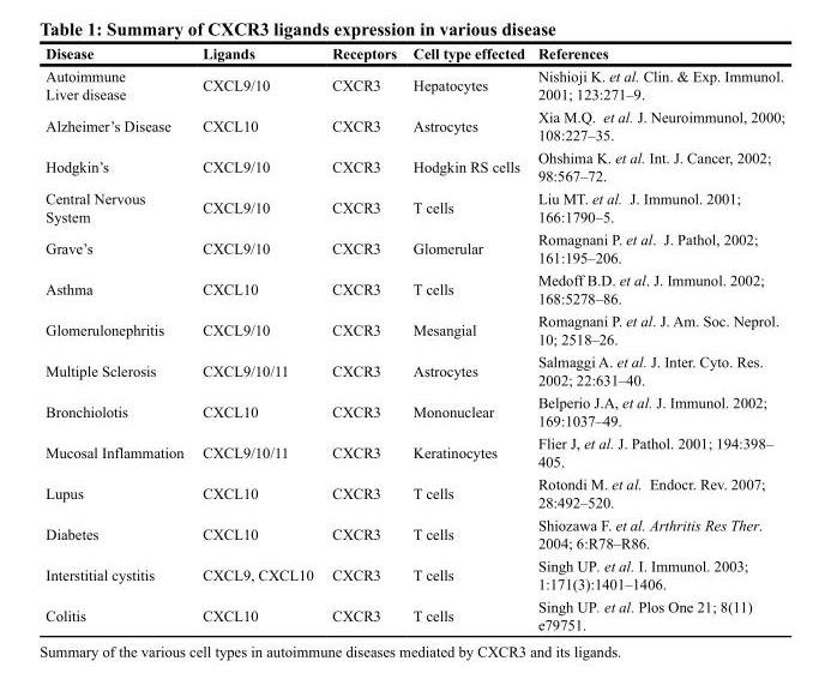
<table><thead><tr><td>Disease</td><td>Ligands</td><td>Receptors</td><td>Cell type effected</td><td>References</td></tr></thead><tbody><tr><td>Autoimmune Liver disease</td><td>CXCL9/10</td><td>CXCR3</td><td>Hepatocytes</td><td>Nishioji K. et al. Clin. &amp; Exp. Immunol. 2001; 123:271–9.</td></tr><tr><td>Alzheimer’s Disease</td><td>CXCL10</td><td>CXCR3</td><td>Astrocytes</td><td>Xia M.Q. et al. J. Neuroimmunol, 2000; 108:227–35.</td></tr><tr><td>Hodgkin’s</td><td>CXCL9/10</td><td>CXCR3</td><td>Hodgkin RS cells</td><td>Ohshima K. et al. Int. J. Cancer, 2002; 98:567–72.</td></tr><tr><td>Central Nervous System</td><td>CXCL9/10</td><td>CXCR3</td><td>T cells</td><td>Liu MT. et al. J. Immunol. 2001; 166:1790–5.</td></tr><tr><td>Grave’s</td><td>CXCL9/10</td><td>CXCR3</td><td>Glomerular</td><td>Romagnani P. et al. J. Pathol, 2002; 161:195–206.</td></tr><tr><td>Asthma</td><td>CXCL10</td><td>CXCR3</td><td>T cells</td><td>Medoff B.D. et al. J. Immunol. 2002; 168:5278–86.</td></tr><tr><td>Glomerulonephritis</td><td>CXCL9/10</td><td>CXCR3</td><td>Mesangial</td><td>Romagnani P. et al. J. Am. Soc. Neprol. 10; 2518–26.</td></tr><tr><td>Multiple Sclerosis</td><td>CXCL9/10/11</td><td>CXCR3</td><td>Astrocytes</td><td>Salmaggi A. et al. J. Inter. Cyto. Res. 2002; 22:631–40.</td></tr><tr><td>Bronchiolotis</td><td>CXCL10</td><td>CXCR3</td><td>Mononuclear</td><td>Belperio J.A, et al. J. Immunol. 2002; 169:1037–49.</td></tr><tr><td>Mucosal Inflammation</td><td>CXCL9/10/11</td><td>CXCR3</td><td>Keratinocytes</td><td>Flier J, et al. J. Pathol. 2001; 194:398– 405.</td></tr><tr><td>Lupus</td><td>CXCL10</td><td>CXCR3</td><td>T cells</td><td>Rotondi M. et al. Endocr. Rev. 2007; 28:492–520.</td></tr><tr><td>Diabetes</td><td>CXCL10</td><td>CXCR3</td><td>T cells</td><td>Shiozawa F. et al. Arthritis Res Ther. 2004; 6:R78–R86.</td></tr><tr><td>Interstitial cystitis</td><td>CXCL9, CXCL10</td><td>CXCR3</td><td>T cells</td><td>Singh UP. et al. I. Immunol. 2003; 1:171(3):1401–1406.</td></tr><tr><td>Colitis</td><td>CXCL10</td><td>CXCR3</td><td>T cells</td><td>Singh UP. et al. Plos One 21; 8(11) e79751.</td></tr></tbody></table>